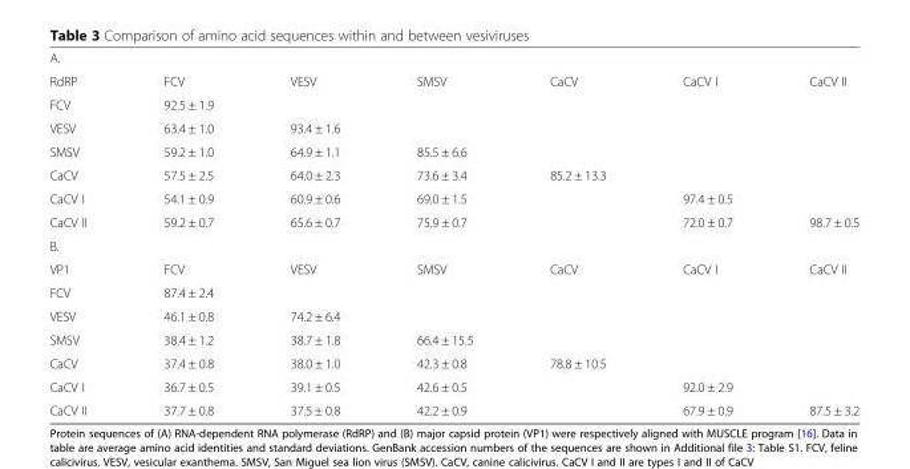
<table><tbody><tr><td colspan="7">A.</td></tr><tr><td>RdRP</td><td>FCV</td><td>VESV</td><td>SMSV</td><td>CaCV</td><td>CaCV I</td><td>CaCV II</td></tr><tr><td>FCV</td><td>92.5 ± 1.9</td><td></td><td></td><td></td><td></td><td></td></tr><tr><td>VESV</td><td>63.4 ± 1.0</td><td>93.4 ± 1.6</td><td></td><td></td><td></td><td></td></tr><tr><td>SMSV</td><td>59.2 ± 1.0</td><td>64.9 ± 1.1</td><td>85.5 ± 6.6</td><td></td><td></td><td></td></tr><tr><td>CaCV</td><td>57.5 ± 2.5</td><td>64.0 ± 2.3</td><td>73.6 ± 3.4</td><td>85.2 ± 13.3</td><td></td><td></td></tr><tr><td>CaCV I</td><td>54.1 ± 0.9</td><td>60.9 ± 0.6</td><td>69.0 ± 1.5</td><td></td><td>97.4 ± 0.5</td><td></td></tr><tr><td>CaCV II</td><td>59.2 ± 0.7</td><td>65.6 ± 0.7</td><td>75.9 ± 0.7</td><td></td><td>72.0 ± 0.7</td><td>98.7 ± 0.5</td></tr><tr><td colspan="7">B.</td></tr><tr><td>VP1</td><td>FCV</td><td>VESV</td><td>SMSV</td><td>CaCV</td><td>CaCV I</td><td>CaCV II</td></tr><tr><td>FCV</td><td>87.4 ± 2.4</td><td></td><td></td><td></td><td></td><td></td></tr><tr><td>VESV</td><td>46.1 ± 0.8</td><td>74.2 ± 6.4</td><td></td><td></td><td></td><td></td></tr><tr><td>SMSV</td><td>38.4 ± 1.2</td><td>38.7 ± 1.8</td><td>66.4 ± 15.5</td><td></td><td></td><td></td></tr><tr><td>CaCV</td><td>37.4 ± 0.8</td><td>38.0 ± 1.0</td><td>42.3 ± 0.8</td><td>78.8 ± 10.5</td><td></td><td></td></tr><tr><td>CaCV I</td><td>36.7 ± 0.5</td><td>39.1 ± 0.5</td><td>42.6 ± 0.5</td><td></td><td>92.0 ± 2.9</td><td></td></tr><tr><td>CaCV II</td><td>37.7 ± 0.8</td><td>37.5 ± 0.8</td><td>42.2 ± 0.9</td><td></td><td>67.9 ± 0.9</td><td>87.5 ± 3.2</td></tr></tbody></table>